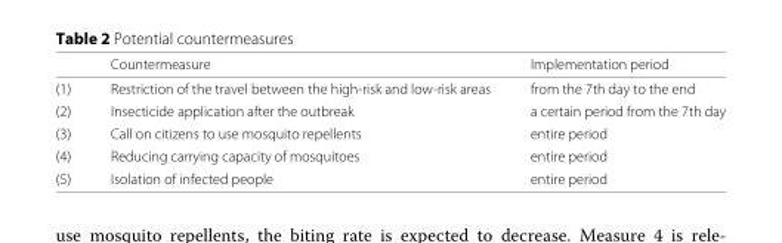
<table><thead><tr><td></td><td>Countermeasure</td><td>Implementation period</td></tr></thead><tbody><tr><td>(1)</td><td>Restriction of the travel between the high-risk and low-risk areas</td><td>from the 7th day to the end</td></tr><tr><td>(2)</td><td>Insecticide application after the outbreak</td><td>a certain period from the 7th day</td></tr><tr><td>(3)</td><td>Call on citizens to use mosquito repellents</td><td>entire period</td></tr><tr><td>(4)</td><td>Reducing carrying capacity of mosquitoes</td><td>entire period</td></tr><tr><td>(5)</td><td>Isolation of infected people</td><td>entire period</td></tr></tbody></table>